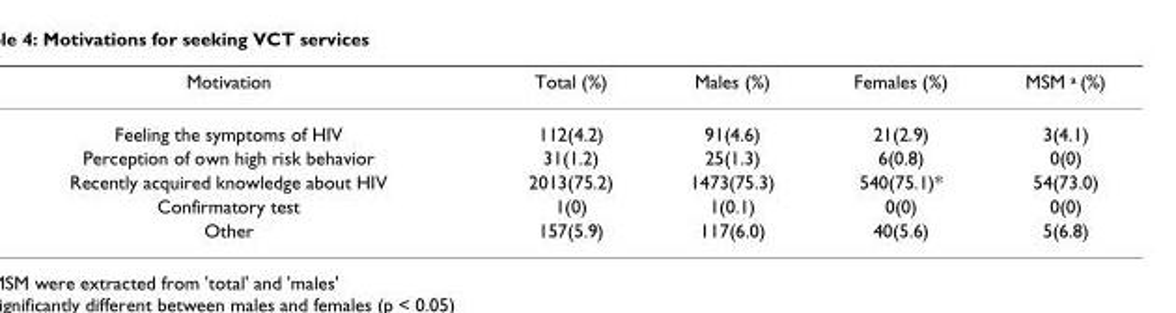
<table><thead><tr><td>Motivation</td><td>Total (%)</td><td>Males (%)</td><td>Females (%)</td><td>MSM <sup>a</sup> (%)</td></tr></thead><tbody><tr><td>Feeling the symptoms of HIV</td><td>112(4.2)</td><td>91(4.6)</td><td>21(2.9)</td><td>3(4.1)</td></tr><tr><td>Perception of own high risk behavior</td><td>31(1.2)</td><td>25(1.3)</td><td>6(0.8)</td><td>0(0)</td></tr><tr><td>Recently acquired knowledge about HIV</td><td>2013(75.2)</td><td>1473(75.3)</td><td>540(75.1)*</td><td>54(73.0)</td></tr><tr><td>Confirmatory test</td><td>1(0)</td><td>1(0.1)</td><td>0(0)</td><td>0(0)</td></tr><tr><td>Other</td><td>157(5.9)</td><td>117(6.0)</td><td>40(5.6)</td><td>5(6.8)</td></tr></tbody></table>